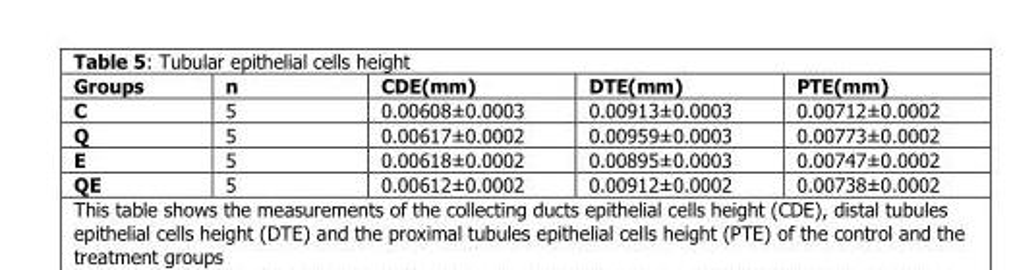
<table><thead><tr><td>Groups</td><td>n</td><td>CDE(mm)</td><td>DTE(mm)</td><td>PTE(mm)</td></tr></thead><tbody><tr><td>C</td><td>5</td><td>0.00608±0.0003</td><td>0.00913±0.0003</td><td>0.00712±0.0002</td></tr><tr><td>Q</td><td>5</td><td>0.00617±0.0002</td><td>0.00959±0.0003</td><td>0.00773±0.0002</td></tr><tr><td>E</td><td>5</td><td>0.00618±0.0002</td><td>0.00895±0.0003</td><td>0.00747±0.0002</td></tr><tr><td>QE</td><td>5</td><td>0.00612±0.0002</td><td>0.00912±0.0002</td><td>0.00738±0.0002</td></tr></tbody></table>